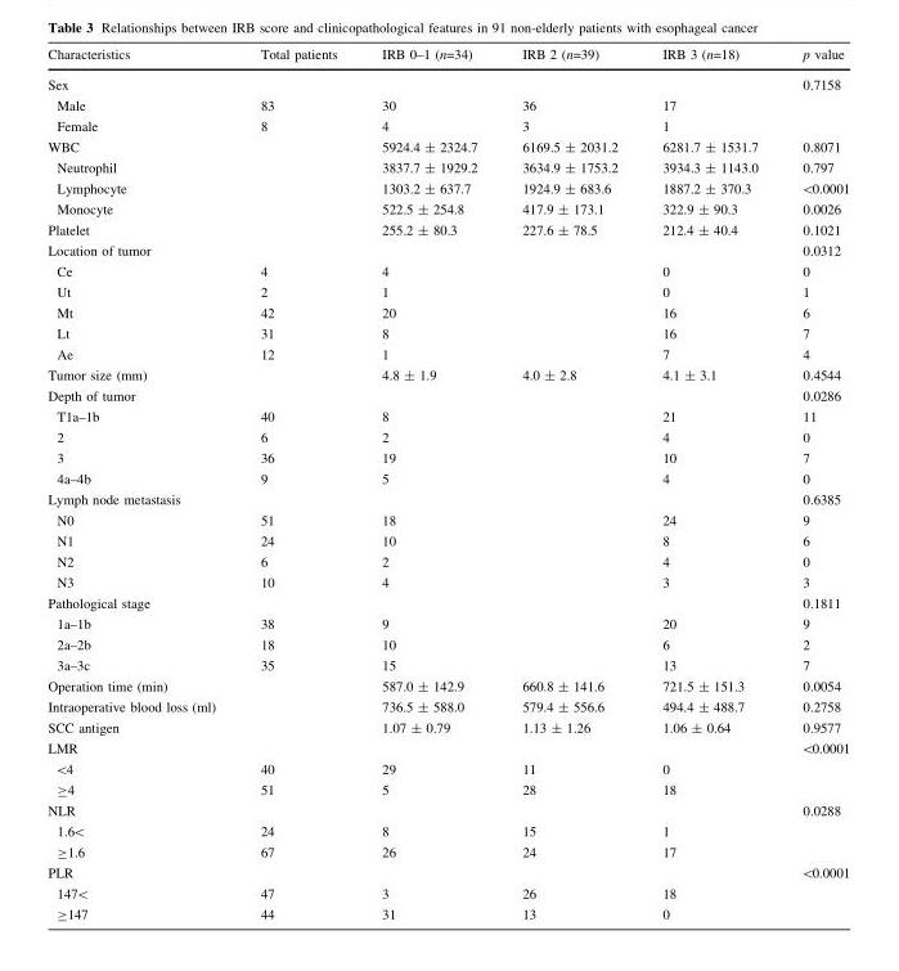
<table><thead><tr><td>Characteristics</td><td>Total patients</td><td>IRB 0–1 (n=34)</td><td>IRB 2 (n=39)</td><td>IRB 3 (n=18)</td><td>p value</td></tr></thead><tbody><tr><td>Sex</td><td></td><td></td><td></td><td></td><td>0.7158</td></tr><tr><td>Male</td><td>83</td><td>30</td><td>36</td><td>17</td><td></td></tr><tr><td>Female</td><td>8</td><td>4</td><td>3</td><td>1</td><td></td></tr><tr><td>WBC</td><td></td><td>5924.4 ± 2324.7</td><td>6169.5 ± 2031.2</td><td>6281.7 ± 1531.7</td><td>0.8071</td></tr><tr><td>Neutrophil</td><td></td><td>3837.7 ± 1929.2</td><td>3634.9 ± 1753.2</td><td>3934.3 ± 1143.0</td><td>0.797</td></tr><tr><td>Lymphocyte</td><td></td><td>1303.2 ± 637.7</td><td>1924.9 ± 683.6</td><td>1887.2 ± 370.3</td><td>&lt;0.0001</td></tr><tr><td>Monocyte</td><td></td><td>522.5 ± 254.8</td><td>417.9 ± 173.1</td><td>322.9 ± 90.3</td><td>0.0026</td></tr><tr><td>Platelet</td><td></td><td>255.2 ± 80.3</td><td>227.6 ± 78.5</td><td>212.4 ± 40.4</td><td>0.1021</td></tr><tr><td>Location of tumor</td><td></td><td></td><td></td><td></td><td>0.0312</td></tr><tr><td>Ce</td><td>4</td><td>4</td><td></td><td>0</td><td>0</td></tr><tr><td>Ut</td><td>2</td><td>1</td><td></td><td>0</td><td>1</td></tr><tr><td>Mt</td><td>42</td><td>20</td><td></td><td>16</td><td>6</td></tr><tr><td>Lt</td><td>31</td><td>8</td><td></td><td>16</td><td>7</td></tr><tr><td>Ae</td><td>12</td><td>1</td><td></td><td>7</td><td>4</td></tr><tr><td>Tumor size (mm)</td><td></td><td>4.8 ± 1.9</td><td>4.0 ± 2.8</td><td>4.1 ± 3.1</td><td>0.4544</td></tr><tr><td>Depth of tumor</td><td></td><td></td><td></td><td></td><td>0.0286</td></tr><tr><td>T1a–1b</td><td>40</td><td>8</td><td></td><td>21</td><td>11</td></tr><tr><td>2</td><td>6</td><td>2</td><td></td><td>4</td><td>0</td></tr><tr><td>3</td><td>36</td><td>19</td><td></td><td>10</td><td>7</td></tr><tr><td>4a–4b</td><td>9</td><td>5</td><td></td><td>4</td><td>0</td></tr><tr><td>Lymph node metastasis</td><td></td><td></td><td></td><td></td><td>0.6385</td></tr><tr><td>N0</td><td>51</td><td>18</td><td></td><td>24</td><td>9</td></tr><tr><td>N1</td><td>24</td><td>10</td><td></td><td>8</td><td>6</td></tr><tr><td>N2</td><td>6</td><td>2</td><td></td><td>4</td><td>0</td></tr><tr><td>N3</td><td>10</td><td>4</td><td></td><td>3</td><td>3</td></tr><tr><td>Pathological stage</td><td></td><td></td><td></td><td></td><td>0.1811</td></tr><tr><td>1a–1b</td><td>38</td><td>9</td><td></td><td>20</td><td>9</td></tr><tr><td>2a–2b</td><td>18</td><td>10</td><td></td><td>6</td><td>2</td></tr><tr><td>3a–3c</td><td>35</td><td>15</td><td></td><td>13</td><td>7</td></tr><tr><td>Operation time (min)</td><td></td><td>587.0 ± 142.9</td><td>660.8 ± 141.6</td><td>721.5 ± 151.3</td><td>0.0054</td></tr><tr><td>Intraoperative blood loss (ml)</td><td></td><td>736.5 ± 588.0</td><td>579.4 ± 556.6</td><td>494.4 ± 488.7</td><td>0.2758</td></tr><tr><td>SCC antigen</td><td></td><td>1.07 ± 0.79</td><td>1.13 ± 1.26</td><td>1.06 ± 0.64</td><td>0.9577</td></tr><tr><td>LMR</td><td></td><td></td><td></td><td></td><td>&lt;0.0001</td></tr><tr><td>&lt;4</td><td>40</td><td>29</td><td>11</td><td>0</td><td></td></tr><tr><td>≥4</td><td>51</td><td>5</td><td>28</td><td>18</td><td></td></tr><tr><td>NLR</td><td></td><td></td><td></td><td></td><td>0.0288</td></tr><tr><td>1.6&lt;</td><td>24</td><td>8</td><td>15</td><td>1</td><td></td></tr><tr><td>≥1.6</td><td>67</td><td>26</td><td>24</td><td>17</td><td></td></tr><tr><td>PLR</td><td></td><td></td><td></td><td></td><td>&lt;0.0001</td></tr><tr><td>147&lt;</td><td>47</td><td>3</td><td>26</td><td>18</td><td></td></tr><tr><td>≥147</td><td>44</td><td>31</td><td>13</td><td>0</td><td></td></tr></tbody></table>